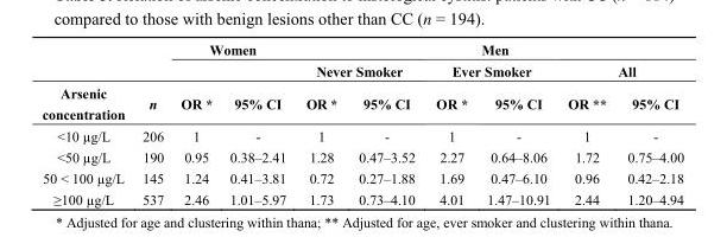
<table><thead><tr><td rowspan="3">Arsenic concentration</td><td rowspan="3">n</td><td colspan="2">Women</td><td colspan="6">Men</td></tr><tr><td rowspan="2">OR *</td><td rowspan="2">95% CI</td><td colspan="2">Never Smoker</td><td colspan="2">Ever Smoker</td><td colspan="2">All</td></tr><tr><td>OR *</td><td>95% CI</td><td>OR *</td><td>95% CI</td><td>OR **</td><td>95% CI</td></tr></thead><tbody><tr><td>&lt;10 µg/L</td><td>206</td><td>1</td><td>-</td><td>1</td><td>-</td><td>1</td><td>-</td><td>1</td><td>-</td></tr><tr><td>&lt;50 µg/L</td><td>190</td><td>0.95</td><td>0.38–2.41</td><td>1.28</td><td>0.47–3.52</td><td>2.27</td><td>0.64–8.06</td><td>1.72</td><td>0.75–4.00</td></tr><tr><td>50 &lt; 100 µg/L</td><td>145</td><td>1.24</td><td>0.41–3.81</td><td>0.72</td><td>0.27–1.88</td><td>1.69</td><td>0.47–6.10</td><td>0.96</td><td>0.42–2.18</td></tr><tr><td>≥100 µg/L</td><td>537</td><td>2.46</td><td>1.01–5.97</td><td>1.73</td><td>0.73–4.10</td><td>4.01</td><td>1.47–10.91</td><td>2.44</td><td>1.20–4.94</td></tr></tbody></table>